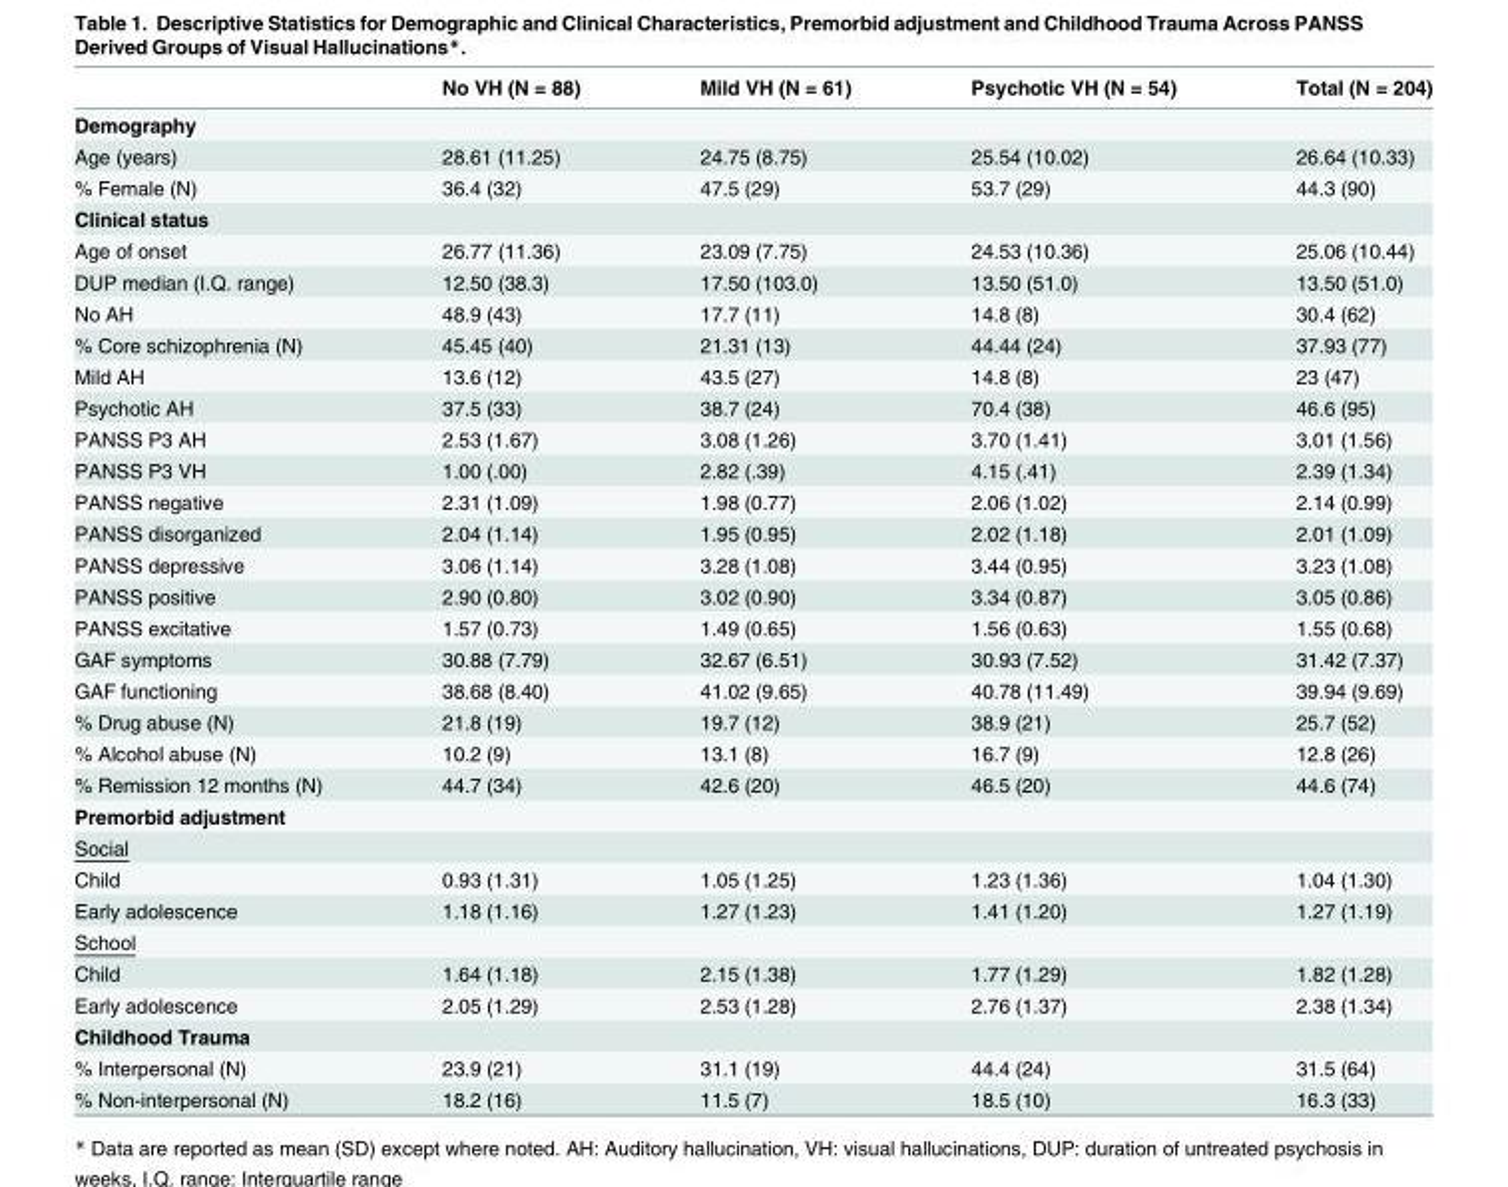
<table><thead><tr><td></td><td>No VH (N = 88)</td><td>Mild VH (N = 61)</td><td>Psychotic VH (N = 54)</td><td>Total (N = 204)</td></tr></thead><tbody><tr><td colspan="5">Demography</td></tr><tr><td>Age (years)</td><td>28.61 (11.25)</td><td>24.75 (8.75)</td><td>25.54 (10.02)</td><td>26.64 (10.33)</td></tr><tr><td>% Female (N)</td><td>36.4 (32)</td><td>47.5 (29)</td><td>53.7 (29)</td><td>44.3 (90)</td></tr><tr><td colspan="5">Clinical status</td></tr><tr><td>Age of onset</td><td>26.77 (11.36)</td><td>23.09 (7.75)</td><td>24.53 (10.36)</td><td>25.06 (10.44)</td></tr><tr><td>DUP median (I.Q. range)</td><td>12.50 (38.3)</td><td>17.50 (103.0)</td><td>13.50 (51.0)</td><td>13.50 (51.0)</td></tr><tr><td>No AH</td><td>48.9 (43)</td><td>17.7 (11)</td><td>14.8 (8)</td><td>30.4 (62)</td></tr><tr><td>% Core schizophrenia (N)</td><td>45.45 (40)</td><td>21.31 (13)</td><td>44.44 (24)</td><td>37.93 (77)</td></tr><tr><td>Mild AH</td><td>13.6 (12)</td><td>43.5 (27)</td><td>14.8 (8)</td><td>23 (47)</td></tr><tr><td>Psychotic AH</td><td>37.5 (33)</td><td>38.7 (24)</td><td>70.4 (38)</td><td>46.6 (95)</td></tr><tr><td>PANSS P3 AH</td><td>2.53 (1.67)</td><td>3.08 (1.26)</td><td>3.70 (1.41)</td><td>3.01 (1.56)</td></tr><tr><td>PANSS P3 VH</td><td>1.00 (.00)</td><td>2.82 (.39)</td><td>4.15 (.41)</td><td>2.39 (1.34)</td></tr><tr><td>PANSS negative</td><td>2.31 (1.09)</td><td>1.98 (0.77)</td><td>2.06 (1.02)</td><td>2.14 (0.99)</td></tr><tr><td>PANSS disorganized</td><td>2.04 (1.14)</td><td>1.95 (0.95)</td><td>2.02 (1.18)</td><td>2.01 (1.09)</td></tr><tr><td>PANSS depressive</td><td>3.06 (1.14)</td><td>3.28 (1.08)</td><td>3.44 (0.95)</td><td>3.23 (1.08)</td></tr><tr><td>PANSS positive</td><td>2.90 (0.80)</td><td>3.02 (0.90)</td><td>3.34 (0.87)</td><td>3.05 (0.86)</td></tr><tr><td>PANSS excitative</td><td>1.57 (0.73)</td><td>1.49 (0.65)</td><td>1.56 (0.63)</td><td>1.55 (0.68)</td></tr><tr><td>GAF symptoms</td><td>30.88 (7.79)</td><td>32.67 (6.51)</td><td>30.93 (7.52)</td><td>31.42 (7.37)</td></tr><tr><td>GAF functioning</td><td>38.68 (8.40)</td><td>41.02 (9.65)</td><td>40.78 (11.49)</td><td>39.94 (9.69)</td></tr><tr><td>% Drug abuse (N)</td><td>21.8 (19)</td><td>19.7 (12)</td><td>38.9 (21)</td><td>25.7 (52)</td></tr><tr><td>% Alcohol abuse (N)</td><td>10.2 (9)</td><td>13.1 (8)</td><td>16.7 (9)</td><td>12.8 (26)</td></tr><tr><td>% Remission 12 months (N)</td><td>44.7 (34)</td><td>42.6 (20)</td><td>46.5 (20)</td><td>44.6 (74)</td></tr><tr><td colspan="5">Premorbid adjustment</td></tr><tr><td colspan="5">Social</td></tr><tr><td>Child</td><td>0.93 (1.31)</td><td>1.05 (1.25)</td><td>1.23 (1.36)</td><td>1.04 (1.30)</td></tr><tr><td>Early adolescence</td><td>1.18 (1.16)</td><td>1.27 (1.23)</td><td>1.41 (1.20)</td><td>1.27 (1.19)</td></tr><tr><td colspan="5">School</td></tr><tr><td>Child</td><td>1.64 (1.18)</td><td>2.15 (1.38)</td><td>1.77 (1.29)</td><td>1.82 (1.28)</td></tr><tr><td>Early adolescence</td><td>2.05 (1.29)</td><td>2.53 (1.28)</td><td>2.76 (1.37)</td><td>2.38 (1.34)</td></tr><tr><td colspan="5">Childhood Trauma</td></tr><tr><td>% Interpersonal (N)</td><td>23.9 (21)</td><td>31.1 (19)</td><td>44.4 (24)</td><td>31.5 (64)</td></tr><tr><td>% Non-interpersonal (N)</td><td>18.2 (16)</td><td>11.5 (7)</td><td>18.5 (10)</td><td>16.3 (33)</td></tr></tbody></table>